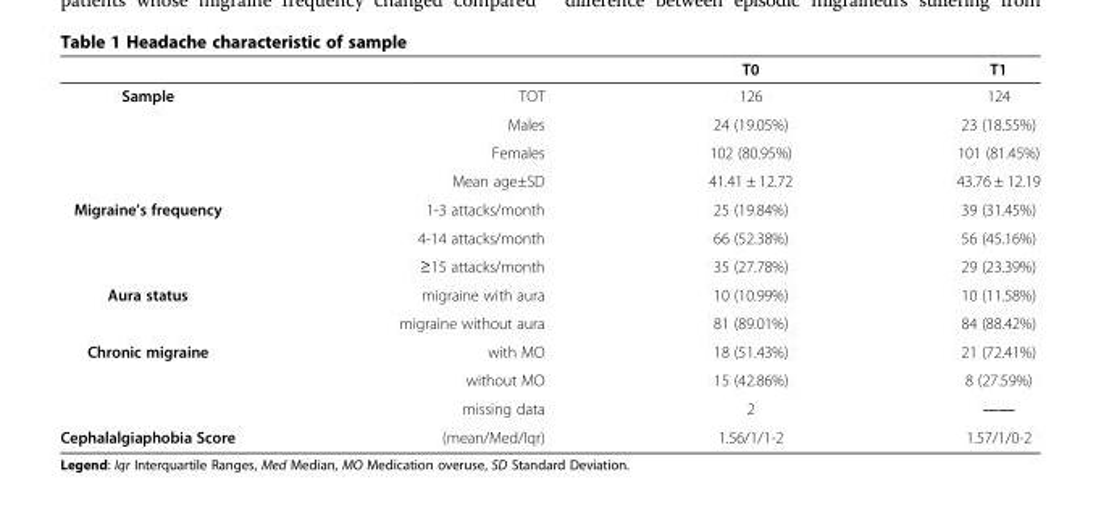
<table><thead><tr><td></td><td></td><td>T0</td><td>T1</td></tr></thead><tbody><tr><td rowspan="4">Sample</td><td>TOT</td><td>126</td><td>124</td></tr><tr><td>Males</td><td>24 (19.05%)</td><td>23 (18.55%)</td></tr><tr><td>Females</td><td>102 (80.95%)</td><td>101 (81.45%)</td></tr><tr><td>Mean age±SD</td><td>41.41 ± 12.72</td><td>43.76 ± 12.19</td></tr><tr><td rowspan="3">Migraine’s frequency</td><td>1-3 attacks/month</td><td>25 (19.84%)</td><td>39 (31.45%)</td></tr><tr><td>4-14 attacks/month</td><td>66 (52.38%)</td><td>56 (45.16%)</td></tr><tr><td>≥15 attacks/month</td><td>35 (27.78%)</td><td>29 (23.39%)</td></tr><tr><td rowspan="2">Aura status</td><td>migraine with aura</td><td>10 (10.99%)</td><td>10 (11.58%)</td></tr><tr><td>migraine without aura</td><td>81 (89.01%)</td><td>84 (88.42%)</td></tr><tr><td rowspan="3">Chronic migraine</td><td>with MO</td><td>18 (51.43%)</td><td>21 (72.41%)</td></tr><tr><td>without MO</td><td>15 (42.86%)</td><td>8 (27.59%)</td></tr><tr><td>missing data</td><td>2</td><td>――</td></tr><tr><td>Cephalalgiaphobia Score</td><td>(mean/Med/Iqr)</td><td>1.56/1/1-2</td><td>1.57/1/0-2</td></tr></tbody></table>